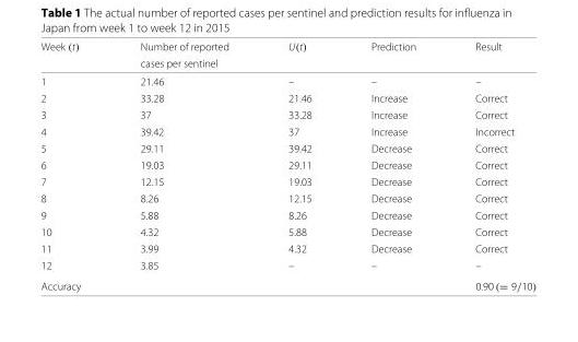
<table><thead><tr><td rowspan="2">Week (t)</td><td rowspan="2">Number of reported cases per sentinel</td><td rowspan="2">U(t)</td><td rowspan="2">Prediction</td><td rowspan="2">Result</td></tr><tr></tr></thead><tbody><tr><td>1</td><td>21.46</td><td>–</td><td>–</td><td>–</td></tr><tr><td>2</td><td>33.28</td><td>21.46</td><td>Increase</td><td>Correct</td></tr><tr><td>3</td><td>37</td><td>33.28</td><td>Increase</td><td>Correct</td></tr><tr><td>4</td><td>39.42</td><td>37</td><td>Increase</td><td>Incorrect</td></tr><tr><td>5</td><td>29.11</td><td>39.42</td><td>Decrease</td><td>Correct</td></tr><tr><td>6</td><td>19.03</td><td>29.11</td><td>Decrease</td><td>Correct</td></tr><tr><td>7</td><td>12.15</td><td>19.03</td><td>Decrease</td><td>Correct</td></tr><tr><td>8</td><td>8.26</td><td>12.15</td><td>Decrease</td><td>Correct</td></tr><tr><td>9</td><td>5.88</td><td>8.26</td><td>Decrease</td><td>Correct</td></tr><tr><td>10</td><td>4.32</td><td>5.88</td><td>Decrease</td><td>Correct</td></tr><tr><td>11</td><td>3.99</td><td>4.32</td><td>Decrease</td><td>Correct</td></tr><tr><td>12</td><td>3.85</td><td>–</td><td>–</td><td>–</td></tr><tr><td>Accuracy</td><td></td><td></td><td></td><td>0.90 (= 9/10)</td></tr></tbody></table>